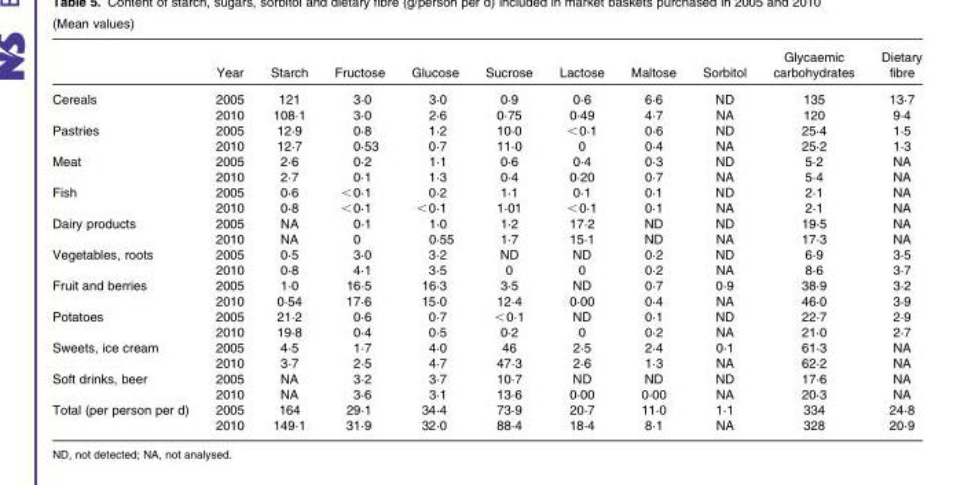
<table><thead><tr><td></td><td>Year</td><td>Starch</td><td>Fructose</td><td>Glucose</td><td>Sucrose</td><td>Lactose</td><td>Maltose</td><td>Sorbitol</td><td>Glycaemic carbohydrates</td><td>Dietary fibre</td></tr></thead><tbody><tr><td rowspan="2">Cereals</td><td>2005</td><td>121</td><td>3·0</td><td>3·0</td><td>0·9</td><td>0·6</td><td>6·6</td><td>ND</td><td>135</td><td>13·7</td></tr><tr><td>2010</td><td>108·1</td><td>3·0</td><td>2·6</td><td>0·75</td><td>0·49</td><td>4·7</td><td>NA</td><td>120</td><td>9·4</td></tr><tr><td rowspan="2">Pastries</td><td>2005</td><td>12·9</td><td>0·8</td><td>1·2</td><td>10·0</td><td>&lt;0·1</td><td>0·6</td><td>ND</td><td>25·4</td><td>1·5</td></tr><tr><td>2010</td><td>12·7</td><td>0·53</td><td>0·7</td><td>11·0</td><td>0</td><td>0·4</td><td>NA</td><td>25·2</td><td>1·3</td></tr><tr><td rowspan="2">Meat</td><td>2005</td><td>2·6</td><td>0·2</td><td>1·1</td><td>0·6</td><td>0·4</td><td>0·3</td><td>ND</td><td>5·2</td><td>NA</td></tr><tr><td>2010</td><td>2·7</td><td>0·1</td><td>1·3</td><td>0·4</td><td>0·20</td><td>0·7</td><td>NA</td><td>5·4</td><td>NA</td></tr><tr><td rowspan="2">Fish</td><td>2005</td><td>0·6</td><td>&lt;0·1</td><td>0·2</td><td>1·1</td><td>0·1</td><td>0·1</td><td>ND</td><td>2·1</td><td>NA</td></tr><tr><td>2010</td><td>0·8</td><td>&lt;0·1</td><td>&lt;0·1</td><td>1·01</td><td>&lt;0·1</td><td>0·1</td><td>NA</td><td>2·1</td><td>NA</td></tr><tr><td rowspan="2">Dairy products</td><td>2005</td><td>NA</td><td>0·1</td><td>1·0</td><td>1·2</td><td>17·2</td><td>ND</td><td>ND</td><td>19·5</td><td>NA</td></tr><tr><td>2010</td><td>NA</td><td>0</td><td>0·55</td><td>1·7</td><td>15·1</td><td>ND</td><td>NA</td><td>17·3</td><td>NA</td></tr><tr><td rowspan="2">Vegetables, roots</td><td>2005</td><td>0·5</td><td>3·0</td><td>3·2</td><td>ND</td><td>ND</td><td>0·2</td><td>ND</td><td>6·9</td><td>3·5</td></tr><tr><td>2010</td><td>0·8</td><td>4·1</td><td>3·5</td><td>0</td><td>0</td><td>0·2</td><td>NA</td><td>8·6</td><td>3·7</td></tr><tr><td rowspan="2">Fruit and berries</td><td>2005</td><td>1·0</td><td>16·5</td><td>16·3</td><td>3·5</td><td>ND</td><td>0·7</td><td>0·9</td><td>38·9</td><td>3·2</td></tr><tr><td>2010</td><td>0·54</td><td>17·6</td><td>15·0</td><td>12·4</td><td>0·00</td><td>0·4</td><td>NA</td><td>46·0</td><td>3·9</td></tr><tr><td rowspan="2">Potatoes</td><td>2005</td><td>21·2</td><td>0·6</td><td>0·7</td><td>&lt;0·1</td><td>ND</td><td>0·1</td><td>ND</td><td>22·7</td><td>2·9</td></tr><tr><td>2010</td><td>19·8</td><td>0·4</td><td>0·5</td><td>0·2</td><td>0</td><td>0·2</td><td>NA</td><td>21·0</td><td>2·7</td></tr><tr><td rowspan="2">Sweets, ice cream</td><td>2005</td><td>4·5</td><td>1·7</td><td>4·0</td><td>46</td><td>2·5</td><td>2·4</td><td>0·1</td><td>61·3</td><td>NA</td></tr><tr><td>2010</td><td>3·7</td><td>2·5</td><td>4·7</td><td>47·3</td><td>2·6</td><td>1·3</td><td>NA</td><td>62·2</td><td>NA</td></tr><tr><td rowspan="2">Soft drinks, beer</td><td>2005</td><td>NA</td><td>3·2</td><td>3·7</td><td>10·7</td><td>ND</td><td>ND</td><td>ND</td><td>17·6</td><td>NA</td></tr><tr><td>2010</td><td>NA</td><td>3·6</td><td>3·1</td><td>13·6</td><td>0·00</td><td>0·00</td><td>NA</td><td>20·3</td><td>NA</td></tr><tr><td rowspan="2">Total (per person per d)</td><td>2005</td><td>164</td><td>29·1</td><td>34·4</td><td>73·9</td><td>20·7</td><td>11·0</td><td>1·1</td><td>334</td><td>24·8</td></tr><tr><td>2010</td><td>149·1</td><td>31·9</td><td>32·0</td><td>88·4</td><td>18·4</td><td>8·1</td><td>NA</td><td>328</td><td>20·9</td></tr></tbody></table>